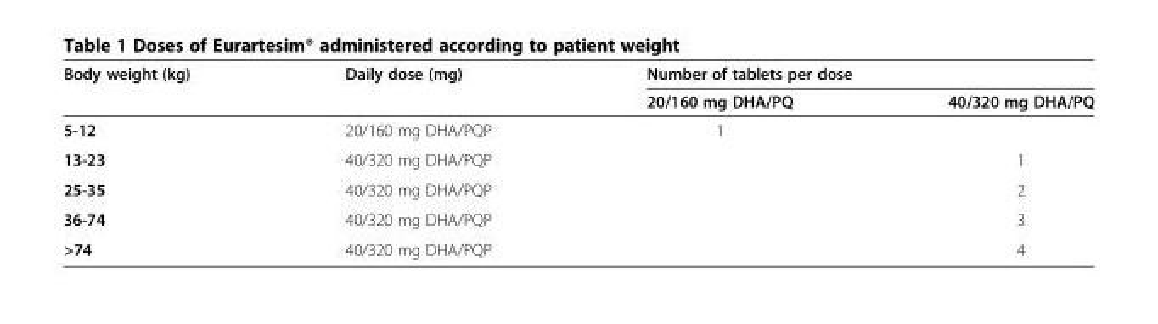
<table><thead><tr><td rowspan="2">Body weight (kg)</td><td rowspan="2">Daily dose (mg)</td><td colspan="2">Number of tablets per dose</td></tr><tr><td>20/160 mg DHA/PQ</td><td>40/320 mg DHA/PQ</td></tr></thead><tbody><tr><td>5-12</td><td>20/160 mg DHA/PQP</td><td>1</td><td></td></tr><tr><td>13-23</td><td>40/320 mg DHA/PQP</td><td></td><td>1</td></tr><tr><td>25-35</td><td>40/320 mg DHA/PQP</td><td></td><td>2</td></tr><tr><td>36-74</td><td>40/320 mg DHA/PQP</td><td></td><td>3</td></tr><tr><td>&gt;74</td><td>40/320 mg DHA/PQP</td><td></td><td>4</td></tr></tbody></table>